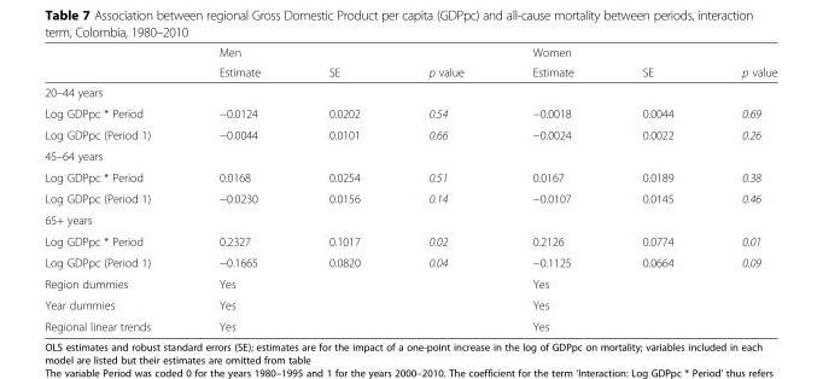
<table><thead><tr><td rowspan="2"></td><td colspan="3">Men</td><td colspan="3">Women</td></tr><tr><td>Estimate</td><td>SE</td><td>p value</td><td>Estimate</td><td>SE</td><td>p value</td></tr></thead><tbody><tr><td colspan="7">20–44 years</td></tr><tr><td>Log GDPpc * Period</td><td>−0.0124</td><td>0.0202</td><td>0.54</td><td>−0.0018</td><td>0.0044</td><td>0.69</td></tr><tr><td>Log GDPpc (Period 1)</td><td>−0.0044</td><td>0.0101</td><td>0.66</td><td>−0.0024</td><td>0.0022</td><td>0.26</td></tr><tr><td colspan="7">45–64 years</td></tr><tr><td>Log GDPpc * Period</td><td>0.0168</td><td>0.0254</td><td>0.51</td><td>0.0167</td><td>0.0189</td><td>0.38</td></tr><tr><td>Log GDPpc (Period 1)</td><td>−0.0230</td><td>0.0156</td><td>0.14</td><td>−0.0107</td><td>0.0145</td><td>0.46</td></tr><tr><td colspan="7">65+ years</td></tr><tr><td>Log GDPpc * Period</td><td>0.2327</td><td>0.1017</td><td>0.02</td><td>0.2126</td><td>0.0774</td><td>0.01</td></tr><tr><td>Log GDPpc (Period 1)</td><td>−0.1665</td><td>0.0820</td><td>0.04</td><td>−0.1125</td><td>0.0664</td><td>0.09</td></tr><tr><td>Region dummies</td><td colspan="3">Yes</td><td colspan="3">Yes</td></tr><tr><td>Year dummies</td><td colspan="3">Yes</td><td colspan="3">Yes</td></tr><tr><td>Regional linear trends</td><td colspan="3">Yes</td><td colspan="3">Yes</td></tr></tbody></table>